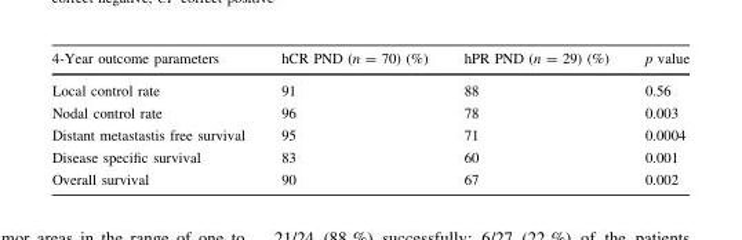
<table><thead><tr><td>4-Year outcome parameters</td><td>hCR PND (n = 70) (%)</td><td>hPR PND (n = 29) (%)</td><td>p value</td></tr></thead><tbody><tr><td>Local control rate</td><td>91</td><td>88</td><td>0.56</td></tr><tr><td>Nodal control rate</td><td>96</td><td>78</td><td>0.003</td></tr><tr><td>Distant metastastis free survival</td><td>95</td><td>71</td><td>0.0004</td></tr><tr><td>Disease specific survival</td><td>83</td><td>60</td><td>0.001</td></tr><tr><td>Overall survival</td><td>90</td><td>67</td><td>0.002</td></tr></tbody></table>